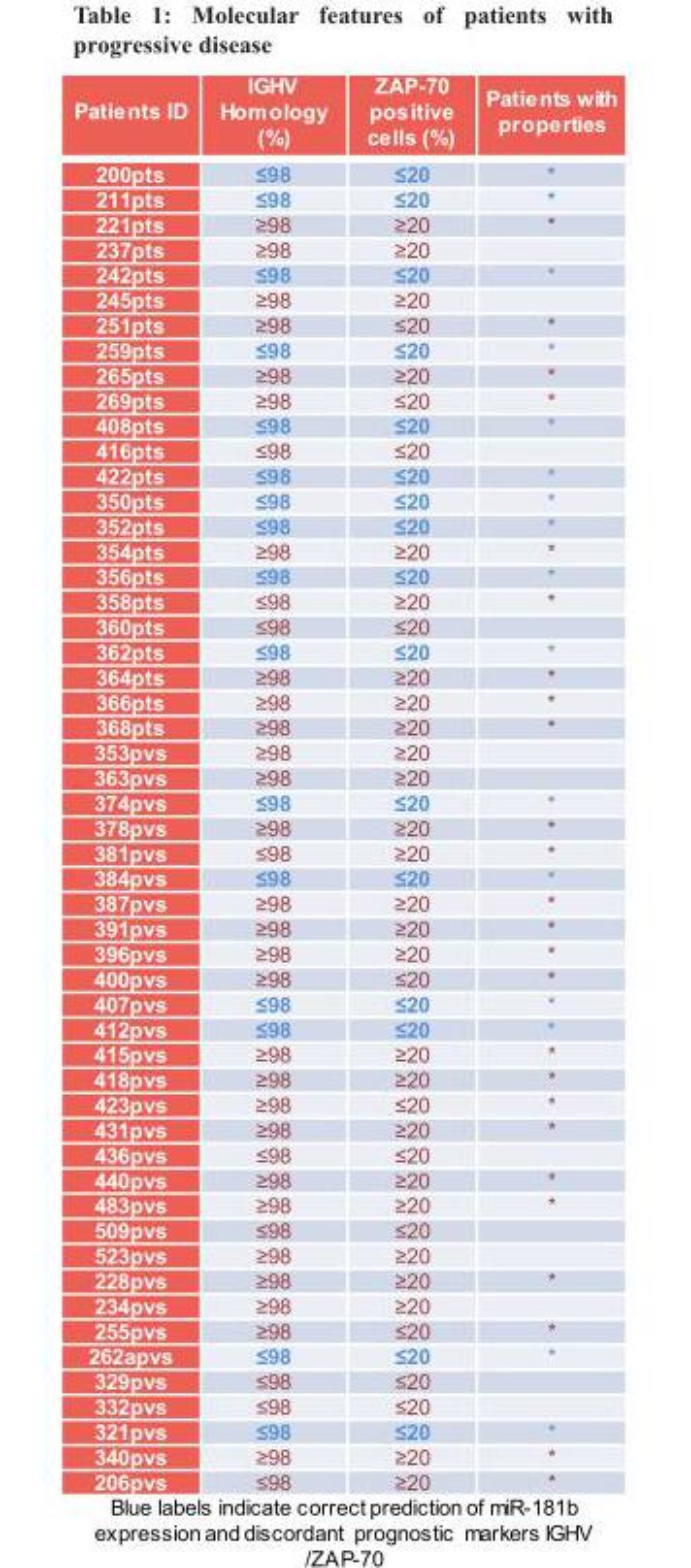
<table><thead><tr><td>Patients ID</td><td>IGHV Homology (%)</td><td>ZAP-70 positive cells (%)</td><td>Patients with properties</td></tr></thead><tbody><tr><td>200pts</td><td>≤98</td><td>≤20</td><td>*</td></tr><tr><td>211pts</td><td>≤98</td><td>≤20</td><td>*</td></tr><tr><td>221pts</td><td>≥98</td><td>≥20</td><td>*</td></tr><tr><td>237pts</td><td>≥98</td><td>≥20</td><td></td></tr><tr><td>242pts</td><td>≤98</td><td>≤20</td><td>*</td></tr><tr><td>245pts</td><td>≥98</td><td>≥20</td><td></td></tr><tr><td>251pts</td><td>≥98</td><td>≤20</td><td>*</td></tr><tr><td>259pts</td><td>≤98</td><td>≤20</td><td>*</td></tr><tr><td>265pts</td><td>≥98</td><td>≥20</td><td>*</td></tr><tr><td>269pts</td><td>≥98</td><td>≤20</td><td>*</td></tr><tr><td>408pts</td><td>≤98</td><td>≤20</td><td>*</td></tr><tr><td>416pts</td><td>≤98</td><td>≤20</td><td></td></tr><tr><td>422pts</td><td>≤98</td><td>≤20</td><td>*</td></tr><tr><td>350pts</td><td>≤98</td><td>≤20</td><td>*</td></tr><tr><td>352pts</td><td>≤98</td><td>≤20</td><td>*</td></tr><tr><td>354pts</td><td>≥98</td><td>≥20</td><td>*</td></tr><tr><td>356pts</td><td>≤98</td><td>≤20</td><td>*</td></tr><tr><td>358pts</td><td>≤98</td><td>≥20</td><td>*</td></tr><tr><td>360pts</td><td>≤98</td><td>≤20</td><td></td></tr><tr><td>362pts</td><td>≤98</td><td>≤20</td><td>*</td></tr><tr><td>364pts</td><td>≥98</td><td>≥20</td><td>*</td></tr><tr><td>366pts</td><td>≥98</td><td>≥20</td><td>*</td></tr><tr><td>368pts</td><td>≥98</td><td>≥20</td><td>*</td></tr><tr><td>353pvs</td><td>≥98</td><td>≥20</td><td></td></tr><tr><td>363pvs</td><td>≥98</td><td>≥20</td><td></td></tr><tr><td>374pvs</td><td>≤98</td><td>≤20</td><td>*</td></tr><tr><td>378pvs</td><td>≥98</td><td>≥20</td><td>*</td></tr><tr><td>381pvs</td><td>≤98</td><td>≥20</td><td>*</td></tr><tr><td>384pvs</td><td>≤98</td><td>≤20</td><td>*</td></tr><tr><td>387pvs</td><td>≥98</td><td>≥20</td><td>*</td></tr><tr><td>391pvs</td><td>≥98</td><td>≥20</td><td>*</td></tr><tr><td>396pvs</td><td>≥98</td><td>≥20</td><td>*</td></tr><tr><td>400pvs</td><td>≥98</td><td>≤20</td><td>*</td></tr><tr><td>407pvs</td><td>≤98</td><td>≤20</td><td>*</td></tr><tr><td>412pvs</td><td>≤98</td><td>≤20</td><td>*</td></tr><tr><td>415pvs</td><td>≥98</td><td>≥20</td><td>*</td></tr><tr><td>418pvs</td><td>≥98</td><td>≥20</td><td>*</td></tr><tr><td>423pvs</td><td>≥98</td><td>≤20</td><td>*</td></tr><tr><td>431pvs</td><td>≥98</td><td>≥20</td><td>*</td></tr><tr><td>436pvs</td><td>≤98</td><td>≤20</td><td></td></tr><tr><td>440pvs</td><td>≥98</td><td>≥20</td><td>*</td></tr><tr><td>483pvs</td><td>≥98</td><td>≥20</td><td>*</td></tr><tr><td>509pvs</td><td>≤98</td><td>≤20</td><td></td></tr><tr><td>523pvs</td><td>≥98</td><td>≥20</td><td></td></tr><tr><td>228pvs</td><td>≥98</td><td>≥20</td><td>*</td></tr><tr><td>234pvs</td><td>≥98</td><td>≥20</td><td></td></tr><tr><td>255pvs</td><td>≥98</td><td>≤20</td><td>*</td></tr><tr><td>262apvs</td><td>≤98</td><td>≤20</td><td>*</td></tr><tr><td>329pvs</td><td>≤98</td><td>≤20</td><td></td></tr><tr><td>332pvs</td><td>≤98</td><td>≤20</td><td></td></tr><tr><td>321pvs</td><td>≤98</td><td>≤20</td><td>*</td></tr><tr><td>340pvs</td><td>≥98</td><td>≥20</td><td>*</td></tr><tr><td>206pvs</td><td>≤98</td><td>≥20</td><td>*</td></tr></tbody></table>